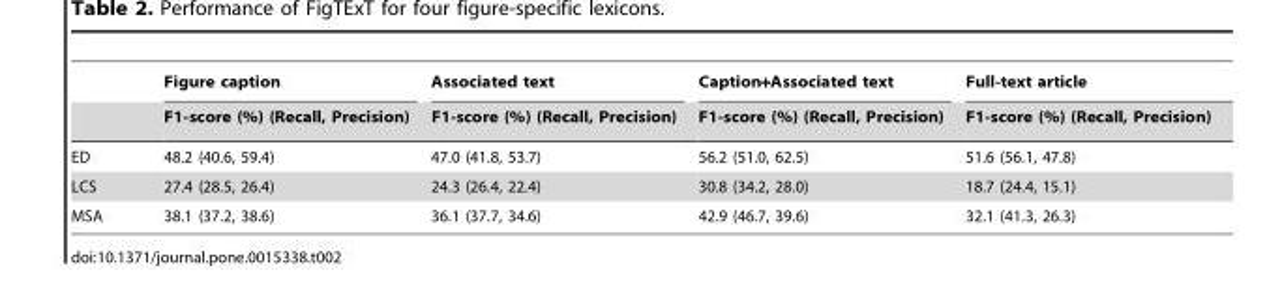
<table><thead><tr><td rowspan="2"></td><td rowspan="2">Figure caption F1-score (%) (Recall, Precision)</td><td rowspan="2">Associated text F1-score (%) (Recall, Precision)</td><td rowspan="2">Caption+Associated text F1-score (%) (Recall, Precision)</td><td rowspan="2">Full-text article F1-score (%) (Recall, Precision)</td></tr><tr></tr></thead><tbody><tr><td>ED</td><td>48.2 (40.6, 59.4)</td><td>47.0 (41.8, 53.7)</td><td>56.2 (51.0, 62.5)</td><td>51.6 (56.1, 47.8)</td></tr><tr><td>LCS</td><td>27.4 (28.5, 26.4)</td><td>24.3 (26.4, 22.4)</td><td>30.8 (34.2, 28.0)</td><td>18.7 (24.4, 15.1)</td></tr><tr><td>MSA</td><td>38.1 (37.2, 38.6)</td><td>36.1 (37.7, 34.6)</td><td>42.9 (46.7, 39.6)</td><td>32.1 (41.3, 26.3)</td></tr></tbody></table>